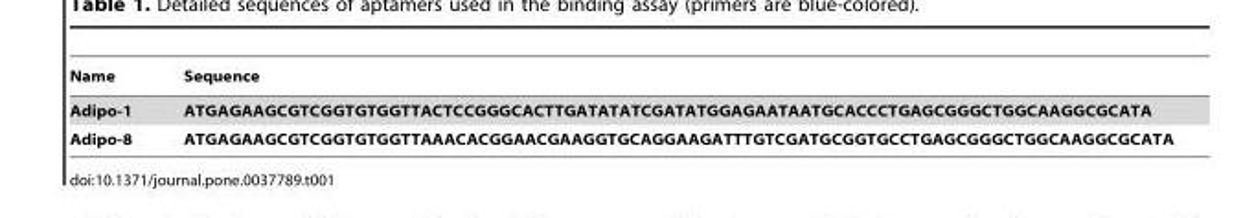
<table><thead><tr><td>Name</td><td>Sequence</td></tr></thead><tbody><tr><td>Adipo-1</td><td>ATGAGAAGCGTCGGTGTGGTTACTCCGGGCACTTGATATATCGATATGGAGAATAATGCACCCTGAGCGGGCTGGCAAGGCGCATA</td></tr><tr><td>Adipo-8</td><td>ATGAGAAGCGTCGGTGTGGTTAAACACGGAACGAAGGTGCAGGAAGATTTGTCGATGCGGTGCCTGAGCGGGCTGGCAAGGCGCATA</td></tr></tbody></table>